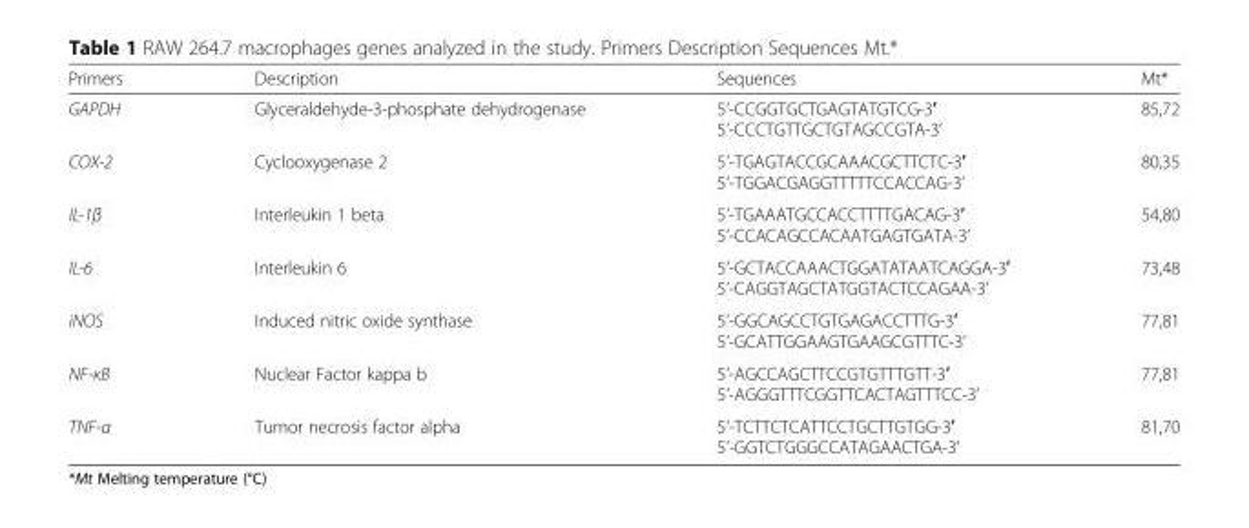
<table><thead><tr><td>Primers</td><td>Description</td><td>Sequences</td><td>Mt*</td></tr></thead><tbody><tr><td>GAPDH</td><td>Glyceraldehyde-3-phosphate dehydrogenase</td><td>5’-CCGGTGCTGAGTATGTCG-3′ 5’-CCCTGTTGCTGTAGCCGTA-3’</td><td>85,72</td></tr><tr><td>COX-2</td><td>Cyclooxygenase 2</td><td>5’-TGAGTACCGCAAACGCTTCTC-3′ 5’-TGGACGAGGTTTTTCCACCAG-3’</td><td>80,35</td></tr><tr><td>IL-1β</td><td>Interleukin 1 beta</td><td>5’-TGAAATGCCACCTTTTGACAG-3′ 5’-CCACAGCCACAATGAGTGATA-3’</td><td>54,80</td></tr><tr><td>IL-6</td><td>Interleukin 6</td><td>5’-GCTACCAAACTGGATATAATCAGGA-3′ 5’-CAGGTAGCTATGGTACTCCAGAA-3’</td><td>73,48</td></tr><tr><td>iNOS</td><td>Induced nitric oxide synthase</td><td>5’-GGCAGCCTGTGAGACCTTTG-3′ 5’-GCATTGGAAGTGAAGCGTTTC-3’</td><td>77,81</td></tr><tr><td>NF-κB</td><td>Nuclear Factor kappa b</td><td>5’-AGCCAGCTTCCGTGTTTGTT-3′ 5’-AGGGTTTCGGTTCACTAGTTTCC-3’</td><td>77,81</td></tr><tr><td>TNF-α</td><td>Tumor necrosis factor alpha</td><td>5’-TCTTCTCATTCCTGCTTGTGG-3′ 5’-GGTCTGGGCCATAGAACTGA-3’</td><td>81,70</td></tr></tbody></table>